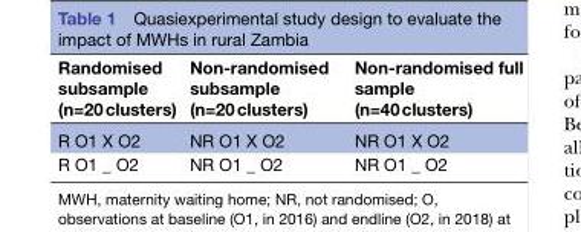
<table><thead><tr><td>Randomised subsample (n=20 clusters)</td><td>Non-randomised subsample (n=20 clusters)</td><td>Non-randomised full sample (n=40 clusters)</td></tr></thead><tbody><tr><td>R O1 X O2</td><td>NR O1 X O2</td><td>NR O1 X O2</td></tr><tr><td>R O1 _ O2</td><td>NR O1 _ O2</td><td>NR O1 _ O2</td></tr></tbody></table>